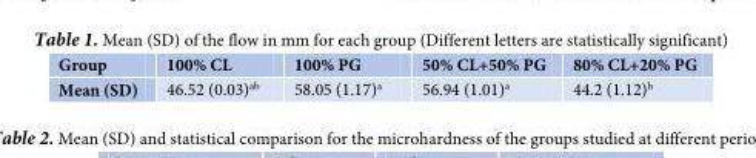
<table><thead><tr><td>Group</td><td>100% CL</td><td>100% PG</td><td>50% CL+50% PG</td><td>80% CL+20% PG</td></tr></thead><tbody><tr><td>Mean (SD)</td><td>46.52 (0.03)<sup>ab</sup></td><td>58.05 (1.17)<sup>a</sup></td><td>56.94 (1.01)<sup>a</sup></td><td>44.2 (1.12)<sup>b</sup></td></tr></tbody></table>